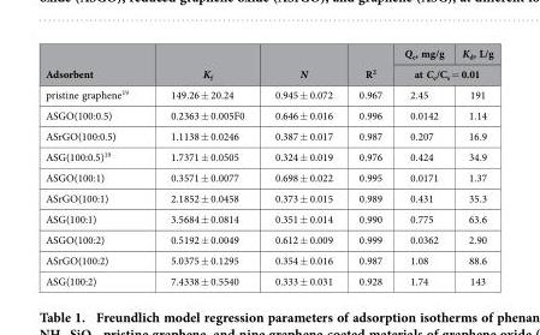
<table><thead><tr><td rowspan="2">Adsorbent</td><td rowspan="2">K<sub>f</sub></td><td rowspan="2">N</td><td rowspan="2">R<sup>2</sup></td><td>Q<sub>e</sub>, mg/g</td><td>K<sub>d</sub>, L/g</td></tr><tr><td colspan="2">at C<sub>e</sub>/C<sub>s</sub> = 0.01</td></tr></thead><tbody><tr><td>pristine graphene<sup>19</sup></td><td>149.26 ± 20.24</td><td>0.945 ± 0.072</td><td>0.967</td><td>2.45</td><td>191</td></tr><tr><td>ASGO(100:0.5)</td><td>0.2363 ± 0.005F0</td><td>0.646 ± 0.016</td><td>0.996</td><td>0.0142</td><td>1.14</td></tr><tr><td>ASrGO(100:0.5)</td><td>1.1138 ± 0.0246</td><td>0.387 ± 0.017</td><td>0.987</td><td>0.207</td><td>16.9</td></tr><tr><td>ASG(100:0.5)<sup>19</sup></td><td>1.7371 ± 0.0505</td><td>0.324 ± 0.019</td><td>0.976</td><td>0.424</td><td>34.9</td></tr><tr><td>ASGO(100:1)</td><td>0.3571 ± 0.0077</td><td>0.698 ± 0.022</td><td>0.995</td><td>0.0171</td><td>1.37</td></tr><tr><td>ASrGO(100:1)</td><td>2.1852 ± 0.0458</td><td>0.373 ± 0.015</td><td>0.989</td><td>0.431</td><td>35.3</td></tr><tr><td>ASG(100:1)</td><td>3.5684 ± 0.0814</td><td>0.351 ± 0.014</td><td>0.990</td><td>0.775</td><td>63.6</td></tr><tr><td>ASGO(100:2)</td><td>0.5192 ± 0.0049</td><td>0.612 ± 0.009</td><td>0.999</td><td>0.0362</td><td>2.90</td></tr><tr><td>ASrGO(100:2)</td><td>5.0375 ± 0.1295</td><td>0.354 ± 0.016</td><td>0.987</td><td>1.08</td><td>88.6</td></tr><tr><td>ASG(100:2)</td><td>7.4338 ± 0.5540</td><td>0.333 ± 0.031</td><td>0.928</td><td>1.74</td><td>143</td></tr></tbody></table>